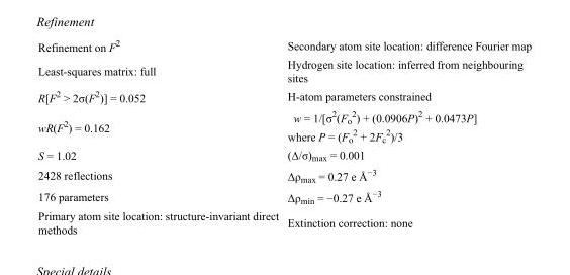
<table><tbody><tr><td>Refinement on F<sup>2</sup></td><td>Secondary atom site location: difference Fourier map</td></tr><tr><td>Least-squares matrix: full</td><td>Hydrogen site location: inferred from neighbouring sites</td></tr><tr><td>R[F<sup>2</sup> &gt; 2σ(F<sup>2</sup>)] = 0.052</td><td>H-atom parameters constrained</td></tr><tr><td>wR(F<sup>2</sup>) = 0.162</td><td>w = 1/[σ<sup>2</sup>(F<sub>o</sub> <sup>2</sup>) + (0.0906P)<sup>2</sup> + 0.0473P] where P = (F<sub>o</sub> <sup>2</sup> + 2F<sub>c</sub> <sup>2</sup>)/3</td></tr><tr><td>S = 1.02</td><td>(Δ/σ)<sub>max</sub> = 0.001</td></tr><tr><td>2428 reflections</td><td>Δρ<sub>max</sub> = 0.27 e Å<sup>−3</sup></td></tr><tr><td>176 parameters</td><td>Δρ<sub>min</sub> = −0.27 e Å<sup>−3</sup></td></tr><tr><td>Primary atom site location: structure-invariant direct methods</td><td>Extinction correction: none</td></tr></tbody></table>